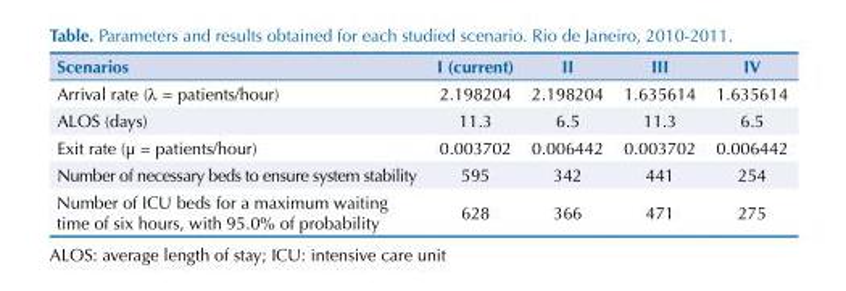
<table><thead><tr><td>Scenarios</td><td>I (current)</td><td>II</td><td>III</td><td>IV</td></tr></thead><tbody><tr><td>Arrival rate (λ = patients/hour)</td><td>2.198204</td><td>2.198204</td><td>1.635614</td><td>1.635614</td></tr><tr><td>ALOS (days)</td><td>11.3</td><td>6.5</td><td>11.3</td><td>6.5</td></tr><tr><td>Exit rate (µ = patients/hour)</td><td>0.003702</td><td>0.006442</td><td>0.003702</td><td>0.006442</td></tr><tr><td>Number of necessary beds to ensure system stability</td><td>595</td><td>342</td><td>441</td><td>254</td></tr><tr><td>Number of ICU beds for a maximum waiting time of six hours, with 95.0% of probability</td><td>628</td><td>366</td><td>471</td><td>275</td></tr></tbody></table>